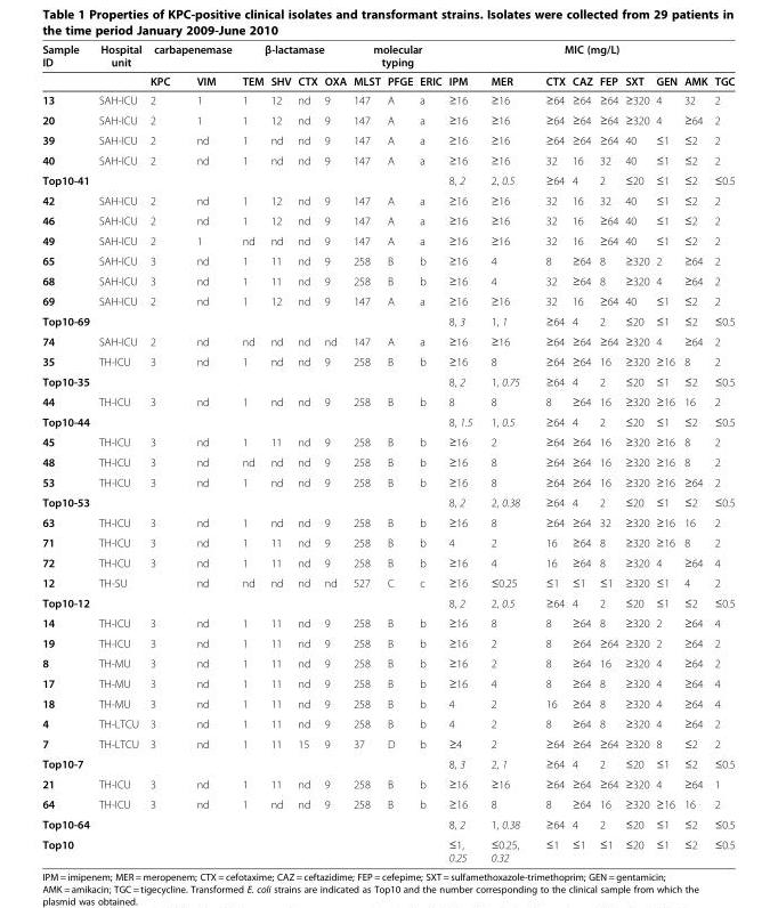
<table><thead><tr><td rowspan="2">Sample ID</td><td rowspan="2">Hospital unit</td><td colspan="2">carbapenemase</td><td colspan="4">β-lactamase</td><td colspan="3">molecular typing</td><td colspan="9">MIC (mg/L)</td></tr><tr><td>KPC</td><td>VIM</td><td>TEM</td><td>SHV</td><td>CTX</td><td>OXA</td><td>MLST</td><td>PFGE</td><td>ERIC</td><td>IPM</td><td>MER</td><td>CTX</td><td>CAZ</td><td>FEP</td><td>SXT</td><td>GEN</td><td>AMK</td><td>TGC</td></tr></thead><tbody><tr><td>13</td><td>SAH-ICU</td><td>2</td><td>1</td><td>1</td><td>12</td><td>nd</td><td>9</td><td>147</td><td>A</td><td>a</td><td>≥16</td><td>≥16</td><td>≥64</td><td>≥64</td><td>≥64</td><td>≥320</td><td>4</td><td>32</td><td>2</td></tr><tr><td>20</td><td>SAH-ICU</td><td>2</td><td>1</td><td>1</td><td>12</td><td>nd</td><td>9</td><td>147</td><td>A</td><td>a</td><td>≥16</td><td>≥16</td><td>≥64</td><td>≥64</td><td>≥64</td><td>≥320</td><td>4</td><td>≥64</td><td>2</td></tr><tr><td>39</td><td>SAH-ICU</td><td>2</td><td>nd</td><td>1</td><td>nd</td><td>nd</td><td>9</td><td>147</td><td>A</td><td>a</td><td>≥16</td><td>≥16</td><td>≥64</td><td>≥64</td><td>≥64</td><td>40</td><td>≤1</td><td>≤2</td><td>2</td></tr><tr><td>40</td><td>SAH-ICU</td><td>2</td><td>nd</td><td>1</td><td>nd</td><td>nd</td><td>9</td><td>147</td><td>A</td><td>a</td><td>≥16</td><td>≥16</td><td>32</td><td>16</td><td>32</td><td>40</td><td>≤1</td><td>≤2</td><td>2</td></tr><tr><td>Top10-41</td><td></td><td></td><td></td><td></td><td></td><td></td><td></td><td></td><td></td><td></td><td>8, 2</td><td>2, 0.5</td><td>≥64</td><td>4</td><td>2</td><td>≤20</td><td>≤1</td><td>≤2</td><td>≤0.5</td></tr><tr><td>42</td><td>SAH-ICU</td><td>2</td><td>nd</td><td>1</td><td>12</td><td>nd</td><td>9</td><td>147</td><td>A</td><td>a</td><td>≥16</td><td>≥16</td><td>32</td><td>16</td><td>32</td><td>40</td><td>≤1</td><td>≤2</td><td>2</td></tr><tr><td>46</td><td>SAH-ICU</td><td>2</td><td>nd</td><td>1</td><td>12</td><td>nd</td><td>9</td><td>147</td><td>A</td><td>a</td><td>≥16</td><td>≥16</td><td>32</td><td>16</td><td>≥64</td><td>40</td><td>≤1</td><td>≤2</td><td>2</td></tr><tr><td>49</td><td>SAH-ICU</td><td>2</td><td>1</td><td>nd</td><td>nd</td><td>nd</td><td>9</td><td>147</td><td>A</td><td>a</td><td>≥16</td><td>≥16</td><td>32</td><td>16</td><td>≥64</td><td>40</td><td>≤1</td><td>≤2</td><td>2</td></tr><tr><td>65</td><td>SAH-ICU</td><td>3</td><td>nd</td><td>1</td><td>11</td><td>nd</td><td>9</td><td>258</td><td>B</td><td>b</td><td>≥16</td><td>4</td><td>8</td><td>≥64</td><td>8</td><td>≥320</td><td>2</td><td>≥64</td><td>2</td></tr><tr><td>68</td><td>SAH-ICU</td><td>3</td><td>nd</td><td>1</td><td>11</td><td>nd</td><td>9</td><td>258</td><td>B</td><td>b</td><td>≥16</td><td>4</td><td>32</td><td>≥64</td><td>8</td><td>≥320</td><td>4</td><td>≥64</td><td>2</td></tr><tr><td>69</td><td>SAH-ICU</td><td>2</td><td>nd</td><td>1</td><td>12</td><td>nd</td><td>9</td><td>147</td><td>A</td><td>a</td><td>≥16</td><td>≥16</td><td>32</td><td>16</td><td>≥64</td><td>40</td><td>≤1</td><td>≤2</td><td>2</td></tr><tr><td>Top10-69</td><td></td><td></td><td></td><td></td><td></td><td></td><td></td><td></td><td></td><td></td><td>8, 3</td><td>1, 1</td><td>≥64</td><td>4</td><td>2</td><td>≤20</td><td>≤1</td><td>≤2</td><td>≤0.5</td></tr><tr><td>74</td><td>SAH-ICU</td><td>2</td><td>nd</td><td>nd</td><td>nd</td><td>nd</td><td>nd</td><td>147</td><td>A</td><td>a</td><td>≥16</td><td>≥16</td><td>≥64</td><td>≥64</td><td>≥64</td><td>≥320</td><td>4</td><td>≥64</td><td>2</td></tr><tr><td>35</td><td>TH-ICU</td><td>3</td><td>nd</td><td>1</td><td>nd</td><td>nd</td><td>9</td><td>258</td><td>B</td><td>b</td><td>≥16</td><td>8</td><td>≥64</td><td>≥64</td><td>16</td><td>≥320</td><td>≥16</td><td>8</td><td>2</td></tr><tr><td>Top10-35</td><td></td><td></td><td></td><td></td><td></td><td></td><td></td><td></td><td></td><td></td><td>8, 2</td><td>1, 0.75</td><td>≥64</td><td>4</td><td>2</td><td>≤20</td><td>≤1</td><td>≤2</td><td>≤0.5</td></tr><tr><td>44</td><td>TH-ICU</td><td>3</td><td>nd</td><td>1</td><td>nd</td><td>nd</td><td>9</td><td>258</td><td>B</td><td>b</td><td>8</td><td>8</td><td>8</td><td>≥64</td><td>16</td><td>≥320</td><td>≥16</td><td>16</td><td>2</td></tr><tr><td>Top10-44</td><td></td><td></td><td></td><td></td><td></td><td></td><td></td><td></td><td></td><td></td><td>8, 1.5</td><td>1, 0.5</td><td>≥64</td><td>4</td><td>2</td><td>≤20</td><td>≤1</td><td>≤2</td><td>≤0.5</td></tr><tr><td>45</td><td>TH-ICU</td><td>3</td><td>nd</td><td>1</td><td>11</td><td>nd</td><td>9</td><td>258</td><td>B</td><td>b</td><td>≥16</td><td>2</td><td>≥64</td><td>≥64</td><td>16</td><td>≥320</td><td>≥16</td><td>8</td><td>2</td></tr><tr><td>48</td><td>TH-ICU</td><td>3</td><td>nd</td><td>nd</td><td>nd</td><td>nd</td><td>9</td><td>258</td><td>B</td><td>b</td><td>≥16</td><td>8</td><td>≥64</td><td>≥64</td><td>16</td><td>≥320</td><td>≥16</td><td>8</td><td>2</td></tr><tr><td>53</td><td>TH-ICU</td><td>3</td><td>nd</td><td>1</td><td>nd</td><td>nd</td><td>9</td><td>258</td><td>B</td><td>b</td><td>≥16</td><td>8</td><td>≥64</td><td>≥64</td><td>16</td><td>≥320</td><td>≥16</td><td>≥64</td><td>2</td></tr><tr><td>Top10-53</td><td></td><td></td><td></td><td></td><td></td><td></td><td></td><td></td><td></td><td></td><td>8, 2</td><td>2, 0.38</td><td>≥64</td><td>4</td><td>2</td><td>≤20</td><td>≤1</td><td>≤2</td><td>≤0.5</td></tr><tr><td>63</td><td>TH-ICU</td><td>3</td><td>nd</td><td>1</td><td>nd</td><td>nd</td><td>9</td><td>258</td><td>B</td><td>b</td><td>≥16</td><td>8</td><td>≥64</td><td>≥64</td><td>32</td><td>≥320</td><td>≥16</td><td>16</td><td>2</td></tr><tr><td>71</td><td>TH-ICU</td><td>3</td><td>nd</td><td>1</td><td>11</td><td>nd</td><td>9</td><td>258</td><td>B</td><td>b</td><td>4</td><td>2</td><td>16</td><td>≥64</td><td>8</td><td>≥320</td><td>≥16</td><td>8</td><td>2</td></tr><tr><td>72</td><td>TH-ICU</td><td>3</td><td>nd</td><td>1</td><td>11</td><td>nd</td><td>9</td><td>258</td><td>B</td><td>b</td><td>≥16</td><td>4</td><td>16</td><td>≥64</td><td>8</td><td>≥320</td><td>4</td><td>≥64</td><td>4</td></tr><tr><td>12</td><td>TH-SU</td><td></td><td>nd</td><td>nd</td><td>nd</td><td>nd</td><td>nd</td><td>527</td><td>C</td><td>c</td><td>≥16</td><td>≤0.25</td><td>≤1</td><td>≤1</td><td>≤1</td><td>≥320</td><td>≤1</td><td>4</td><td>2</td></tr><tr><td>Top10-12</td><td></td><td></td><td></td><td></td><td></td><td></td><td></td><td></td><td></td><td></td><td>8, 2</td><td>2, 0.5</td><td>≥64</td><td>4</td><td>2</td><td>≤20</td><td>≤1</td><td>≤2</td><td>≤0.5</td></tr><tr><td>14</td><td>TH-ICU</td><td>3</td><td>nd</td><td>1</td><td>11</td><td>nd</td><td>9</td><td>258</td><td>B</td><td>b</td><td>≥16</td><td>8</td><td>8</td><td>≥64</td><td>8</td><td>≥320</td><td>2</td><td>≥64</td><td>4</td></tr><tr><td>19</td><td>TH-ICU</td><td>3</td><td>nd</td><td>1</td><td>11</td><td>nd</td><td>9</td><td>258</td><td>B</td><td>b</td><td>≥16</td><td>2</td><td>8</td><td>≥64</td><td>≥64</td><td>≥320</td><td>2</td><td>≥64</td><td>2</td></tr><tr><td>8</td><td>TH-MU</td><td>3</td><td>nd</td><td>1</td><td>11</td><td>nd</td><td>9</td><td>258</td><td>B</td><td>b</td><td>≥16</td><td>2</td><td>8</td><td>≥64</td><td>16</td><td>≥320</td><td>4</td><td>≥64</td><td>2</td></tr><tr><td>17</td><td>TH-MU</td><td>3</td><td>nd</td><td>1</td><td>11</td><td>nd</td><td>9</td><td>258</td><td>B</td><td>b</td><td>≥16</td><td>4</td><td>8</td><td>≥64</td><td>8</td><td>≥320</td><td>4</td><td>≥64</td><td>4</td></tr><tr><td>18</td><td>TH-MU</td><td>3</td><td>nd</td><td>1</td><td>11</td><td>nd</td><td>9</td><td>258</td><td>B</td><td>b</td><td>4</td><td>2</td><td>16</td><td>≥64</td><td>8</td><td>≥320</td><td>4</td><td>≥64</td><td>4</td></tr><tr><td>4</td><td>TH-LTCU</td><td>3</td><td>nd</td><td>1</td><td>11</td><td>nd</td><td>9</td><td>258</td><td>B</td><td>b</td><td>4</td><td>2</td><td>8</td><td>≥64</td><td>8</td><td>≥320</td><td>4</td><td>≥64</td><td>2</td></tr><tr><td>7</td><td>TH-LTCU</td><td>3</td><td>nd</td><td>1</td><td>11</td><td>15</td><td>9</td><td>37</td><td>D</td><td>b</td><td>≥4</td><td>2</td><td>≥64</td><td>≥64</td><td>≥64</td><td>≥320</td><td>8</td><td>≤2</td><td>2</td></tr><tr><td>Top10-7</td><td></td><td></td><td></td><td></td><td></td><td></td><td></td><td></td><td></td><td></td><td>8, 3</td><td>2, 1</td><td>≥64</td><td>4</td><td>2</td><td>≤20</td><td>≤1</td><td>≤2</td><td>≤0.5</td></tr><tr><td>21</td><td>TH-ICU</td><td>3</td><td>nd</td><td>1</td><td>11</td><td>nd</td><td>9</td><td>258</td><td>B</td><td>b</td><td>≥16</td><td>≥16</td><td>≥64</td><td>≥64</td><td>≥64</td><td>≥320</td><td>4</td><td>≥64</td><td>1</td></tr><tr><td>64</td><td>TH-ICU</td><td>3</td><td>nd</td><td>1</td><td>nd</td><td>nd</td><td>9</td><td>258</td><td>B</td><td>b</td><td>≥16</td><td>8</td><td>8</td><td>≥64</td><td>16</td><td>≥320</td><td>≥16</td><td>16</td><td>2</td></tr><tr><td>Top10-64</td><td></td><td></td><td></td><td></td><td></td><td></td><td></td><td></td><td></td><td></td><td>8, 2</td><td>1, 0.38</td><td>≥64</td><td>4</td><td>2</td><td>≤20</td><td>≤1</td><td>≤2</td><td>≤0.5</td></tr><tr><td>Top10</td><td></td><td></td><td></td><td></td><td></td><td></td><td></td><td></td><td></td><td></td><td>≤1, 0.25</td><td>≤0.25, 0.32</td><td>≤1</td><td>≤1</td><td>≤1</td><td>≤20</td><td>≤1</td><td>≤2</td><td>≤0.5</td></tr></tbody></table>